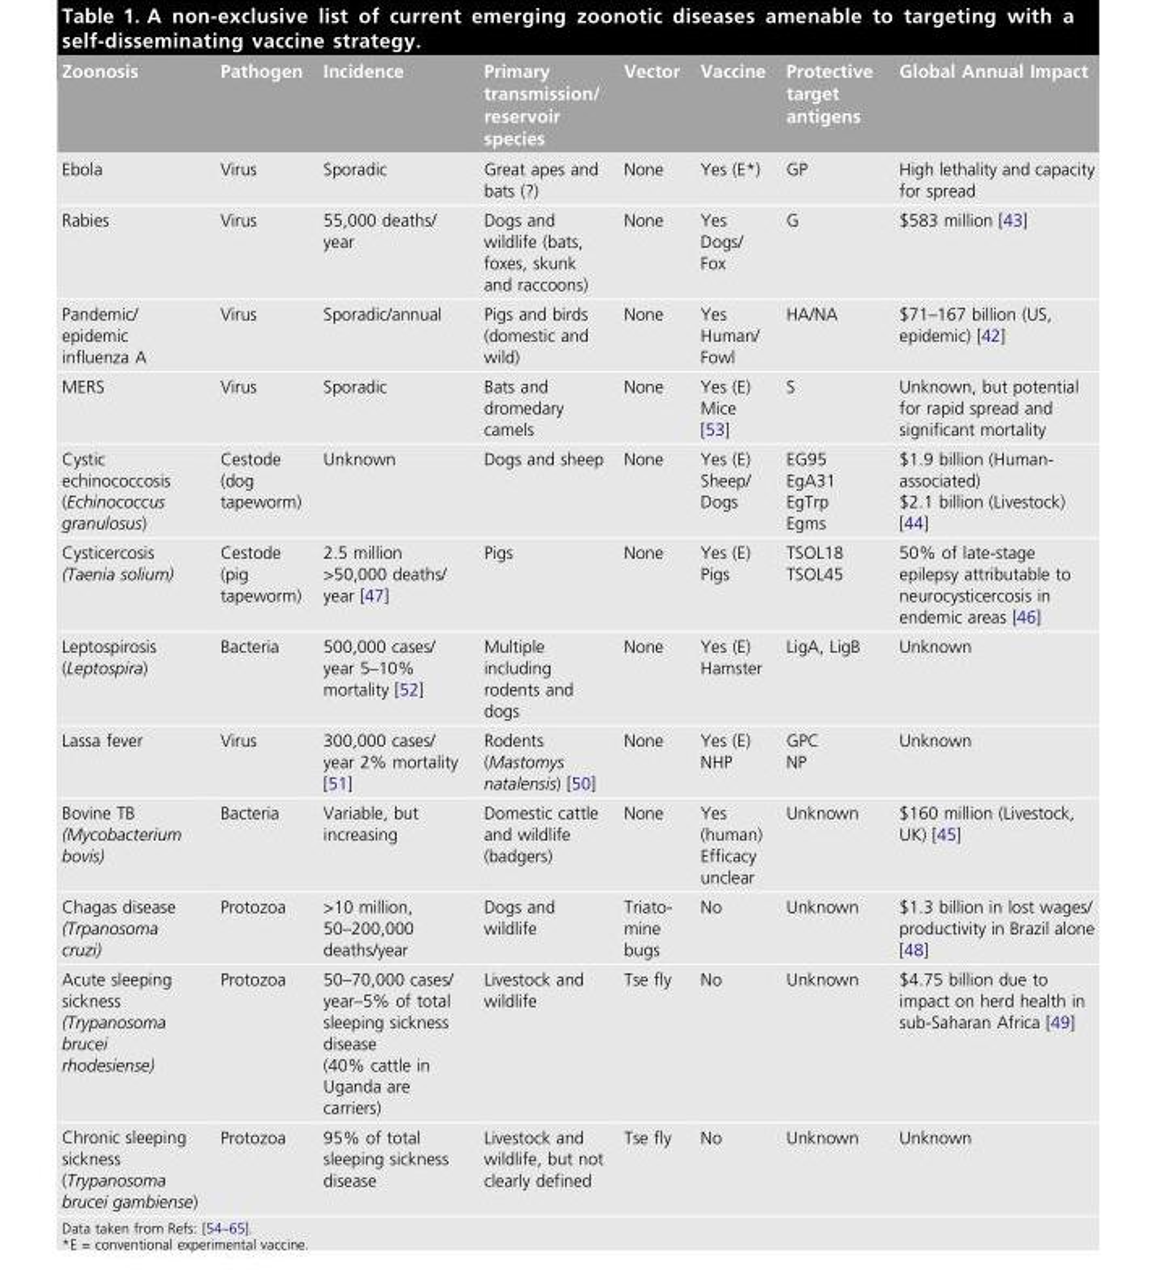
<table><thead><tr><td>Zoonosis</td><td>Pathogen</td><td>Incidence</td><td>Primary transmission/ reservoir species</td><td>Vector</td><td>Vaccine</td><td>Protective target antigens</td><td>Global Annual Impact</td></tr></thead><tbody><tr><td>Ebola</td><td>Virus</td><td>Sporadic</td><td>Great apes and bats (?)</td><td>None</td><td>Yes (E*)</td><td>GP</td><td>High lethality and capacity for spread</td></tr><tr><td>Rabies</td><td>Virus</td><td>55,000 deaths/ year</td><td>Dogs and wildlife (bats, foxes, skunk and raccoons)</td><td>None</td><td>Yes Dogs/ Fox</td><td>G</td><td>$583 million [43]</td></tr><tr><td>Pandemic/ epidemic influenza A</td><td>Virus</td><td>Sporadic/annual</td><td>Pigs and birds (domestic and wild)</td><td>None</td><td>Yes Human/ Fowl</td><td>HA/NA</td><td>$71–167 billion (US, epidemic) [42]</td></tr><tr><td>MERS</td><td>Virus</td><td>Sporadic</td><td>Bats and dromedary camels</td><td>None</td><td>Yes (E) Mice [53]</td><td>S</td><td>Unknown, but potential for rapid spread and significant mortality</td></tr><tr><td>Cystic echinococcosis (Echinococcus granulosus)</td><td>Cestode (dog tapeworm)</td><td>Unknown</td><td>Dogs and sheep</td><td>None</td><td>Yes (E) Sheep/ Dogs</td><td>EG95 EgA31 EgTrp Egms</td><td>$1.9 billion (Human- associated) $2.1 billion (Livestock) [44]</td></tr><tr><td>Cysticercosis (Taenia solium)</td><td>Cestode (pig tapeworm)</td><td>2.5 million &gt;50,000 deaths/ year [47]</td><td>Pigs</td><td>None</td><td>Yes (E) Pigs</td><td>TSOL18 TSOL45</td><td>50% of late-stage epilepsy attributable to neurocysticercosis in endemic areas [46]</td></tr><tr><td>Leptospirosis (Leptospira)</td><td>Bacteria</td><td>500,000 cases/ year 5–10% mortality [52]</td><td>Multiple including rodents and dogs</td><td>None</td><td>Yes (E) Hamster</td><td>LigA, LigB</td><td>Unknown</td></tr><tr><td>Lassa fever</td><td>Virus</td><td>300,000 cases/ year 2% mortality [51]</td><td>Rodents (Mastomys natalensis) [50]</td><td>None</td><td>Yes (E) NHP</td><td>GPC NP</td><td>Unknown</td></tr><tr><td>Bovine TB (Mycobacterium bovis)</td><td>Bacteria</td><td>Variable, but increasing</td><td>Domestic cattle and wildlife (badgers)</td><td>None</td><td>Yes (human) Efficacy unclear</td><td>Unknown</td><td>$160 million (Livestock, UK) [45]</td></tr><tr><td>Chagas disease (Trpanosoma cruzi)</td><td>Protozoa</td><td>&gt;10 million, 50–200,000 deaths/year</td><td>Dogs and wildlife</td><td>Triato- mine bugs</td><td>No</td><td>Unknown</td><td>$1.3 billion in lost wages/ productivity in Brazil alone [48]</td></tr><tr><td>Acute sleeping sickness (Trypanosoma brucei rhodesiense)</td><td>Protozoa</td><td>50–70,000 cases/ year–5% of total sleeping sickness disease (40% cattle in Uganda are carriers)</td><td>Livestock and wildlife</td><td>Tse fly</td><td>No</td><td>Unknown</td><td>$4.75 billion due to impact on herd health in sub-Saharan Africa [49]</td></tr><tr><td>Chronic sleeping sickness (Trypanosoma brucei gambiense)</td><td>Protozoa</td><td>95% of total sleeping sickness disease</td><td>Livestock and wildlife, but not clearly defined</td><td>Tse fly</td><td>No</td><td>Unknown</td><td>Unknown</td></tr></tbody></table>